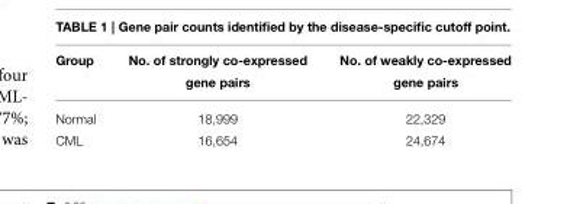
<table><thead><tr><td>Group</td><td>No. of strongly co-expressed gene pairs</td><td>No. of weakly co-expressed gene pairs</td></tr></thead><tbody><tr><td>Normal</td><td>18,999</td><td>22,329</td></tr><tr><td>CML</td><td>16,654</td><td>24,674</td></tr></tbody></table>